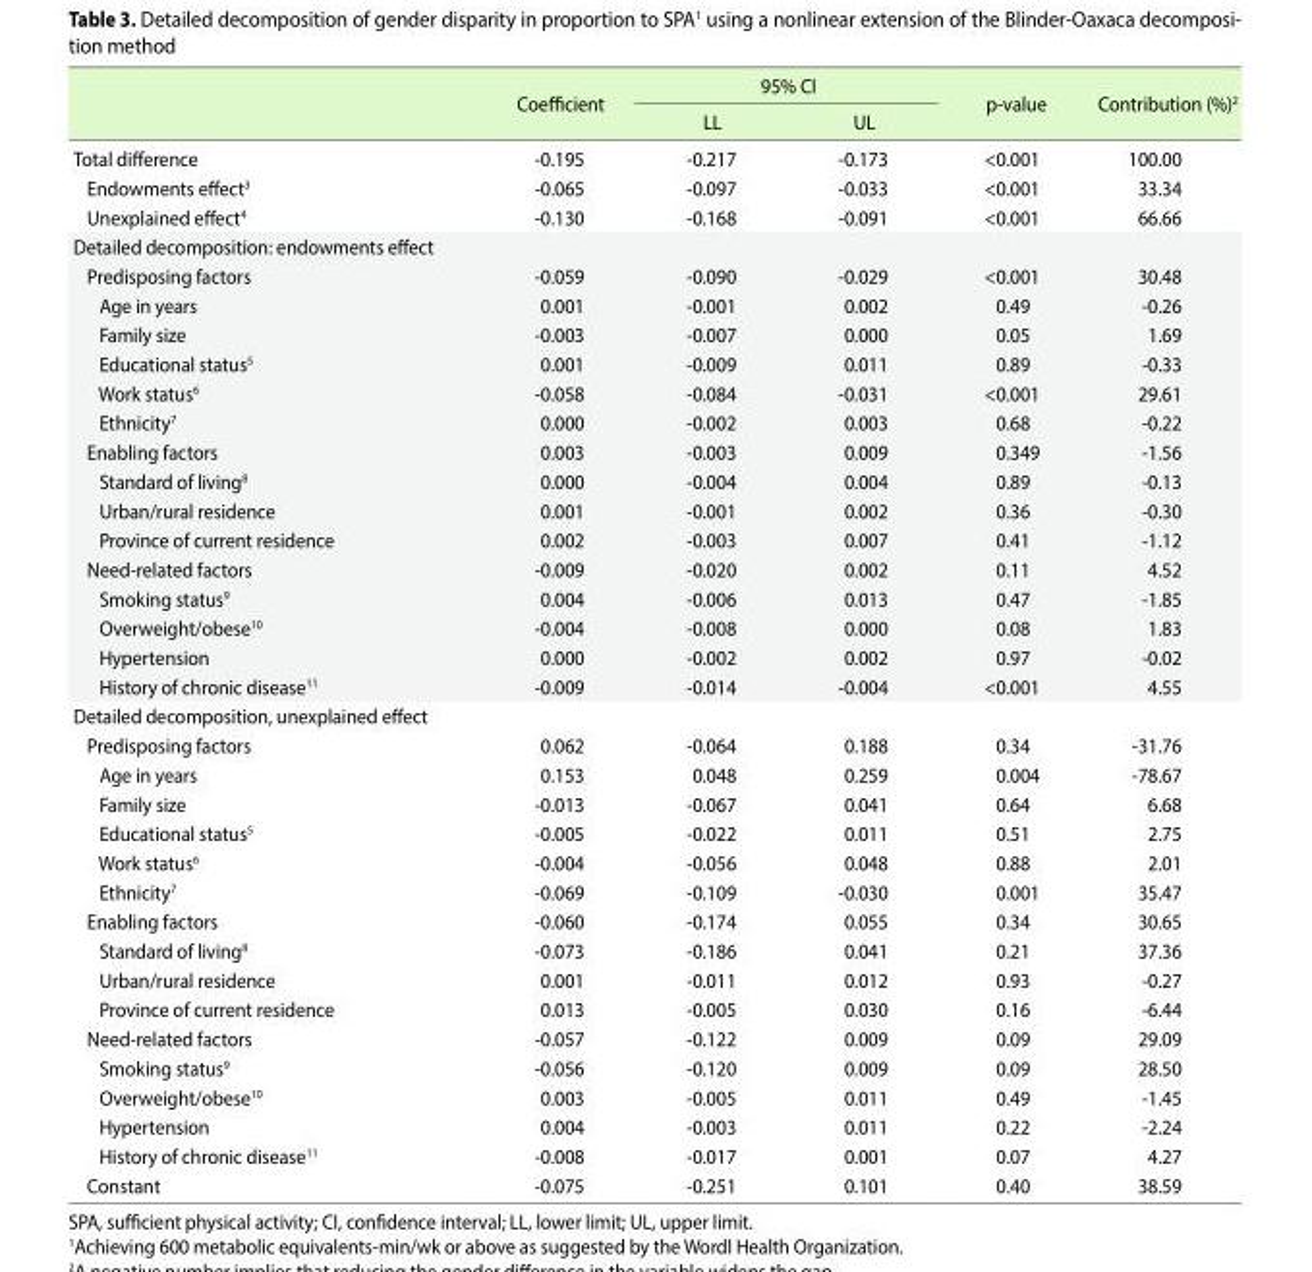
<table><thead><tr><td rowspan="2"></td><td rowspan="2">Coefficient</td><td colspan="2">95% CI</td><td rowspan="2">p-value</td><td rowspan="2">Contribution (%)<sup>2</sup></td></tr><tr><td>LL</td><td>UL</td></tr></thead><tbody><tr><td>Total difference</td><td>-0.195</td><td>-0.217</td><td>-0.173</td><td>&lt;0.001</td><td>100.00</td></tr><tr><td>Endowments effect<sup>3</sup></td><td>-0.065</td><td>-0.097</td><td>-0.033</td><td>&lt;0.001</td><td>33.34</td></tr><tr><td>Unexplained effect<sup>4</sup></td><td>-0.130</td><td>-0.168</td><td>-0.091</td><td>&lt;0.001</td><td>66.66</td></tr><tr><td colspan="6">Detailed decomposition: endowments effect</td></tr><tr><td>Predisposing factors</td><td>-0.059</td><td>-0.090</td><td>-0.029</td><td>&lt;0.001</td><td>30.48</td></tr><tr><td>Age in years</td><td>0.001</td><td>-0.001</td><td>0.002</td><td>0.49</td><td>-0.26</td></tr><tr><td>Family size</td><td>-0.003</td><td>-0.007</td><td>0.000</td><td>0.05</td><td>1.69</td></tr><tr><td>Educational status<sup>5</sup></td><td>0.001</td><td>-0.009</td><td>0.011</td><td>0.89</td><td>-0.33</td></tr><tr><td>Work status<sup>6</sup></td><td>-0.058</td><td>-0.084</td><td>-0.031</td><td>&lt;0.001</td><td>29.61</td></tr><tr><td>Ethnicity<sup>7</sup></td><td>0.000</td><td>-0.002</td><td>0.003</td><td>0.68</td><td>-0.22</td></tr><tr><td>Enabling factors</td><td>0.003</td><td>-0.003</td><td>0.009</td><td>0.349</td><td>-1.56</td></tr><tr><td>Standard of living<sup>8</sup></td><td>0.000</td><td>-0.004</td><td>0.004</td><td>0.89</td><td>-0.13</td></tr><tr><td>Urban/rural residence</td><td>0.001</td><td>-0.001</td><td>0.002</td><td>0.36</td><td>-0.30</td></tr><tr><td>Province of current residence</td><td>0.002</td><td>-0.003</td><td>0.007</td><td>0.41</td><td>-1.12</td></tr><tr><td>Need-related factors</td><td>-0.009</td><td>-0.020</td><td>0.002</td><td>0.11</td><td>4.52</td></tr><tr><td>Smoking status<sup>9</sup></td><td>0.004</td><td>-0.006</td><td>0.013</td><td>0.47</td><td>-1.85</td></tr><tr><td>Overweight/obese<sup>10</sup></td><td>-0.004</td><td>-0.008</td><td>0.000</td><td>0.08</td><td>1.83</td></tr><tr><td>Hypertension</td><td>0.000</td><td>-0.002</td><td>0.002</td><td>0.97</td><td>-0.02</td></tr><tr><td>History of chronic disease<sup>11</sup></td><td>-0.009</td><td>-0.014</td><td>-0.004</td><td>&lt;0.001</td><td>4.55</td></tr><tr><td colspan="6">Detailed decomposition, unexplained effect</td></tr><tr><td>Predisposing factors</td><td>0.062</td><td>-0.064</td><td>0.188</td><td>0.34</td><td>-31.76</td></tr><tr><td>Age in years</td><td>0.153</td><td>0.048</td><td>0.259</td><td>0.004</td><td>-78.67</td></tr><tr><td>Family size</td><td>-0.013</td><td>-0.067</td><td>0.041</td><td>0.64</td><td>6.68</td></tr><tr><td>Educational status<sup>5</sup></td><td>-0.005</td><td>-0.022</td><td>0.011</td><td>0.51</td><td>2.75</td></tr><tr><td>Work status<sup>6</sup></td><td>-0.004</td><td>-0.056</td><td>0.048</td><td>0.88</td><td>2.01</td></tr><tr><td>Ethnicity<sup>7</sup></td><td>-0.069</td><td>-0.109</td><td>-0.030</td><td>0.001</td><td>35.47</td></tr><tr><td>Enabling factors</td><td>-0.060</td><td>-0.174</td><td>0.055</td><td>0.34</td><td>30.65</td></tr><tr><td>Standard of living<sup>8</sup></td><td>-0.073</td><td>-0.186</td><td>0.041</td><td>0.21</td><td>37.36</td></tr><tr><td>Urban/rural residence</td><td>0.001</td><td>-0.011</td><td>0.012</td><td>0.93</td><td>-0.27</td></tr><tr><td>Province of current residence</td><td>0.013</td><td>-0.005</td><td>0.030</td><td>0.16</td><td>-6.44</td></tr><tr><td>Need-related factors</td><td>-0.057</td><td>-0.122</td><td>0.009</td><td>0.09</td><td>29.09</td></tr><tr><td>Smoking status<sup>9</sup></td><td>-0.056</td><td>-0.120</td><td>0.009</td><td>0.09</td><td>28.50</td></tr><tr><td>Overweight/obese<sup>10</sup></td><td>0.003</td><td>-0.005</td><td>0.011</td><td>0.49</td><td>-1.45</td></tr><tr><td>Hypertension</td><td>0.004</td><td>-0.003</td><td>0.011</td><td>0.22</td><td>-2.24</td></tr><tr><td>History of chronic disease<sup>11</sup></td><td>-0.008</td><td>-0.017</td><td>0.001</td><td>0.07</td><td>4.27</td></tr><tr><td>Constant</td><td>-0.075</td><td>-0.251</td><td>0.101</td><td>0.40</td><td>38.59</td></tr></tbody></table>